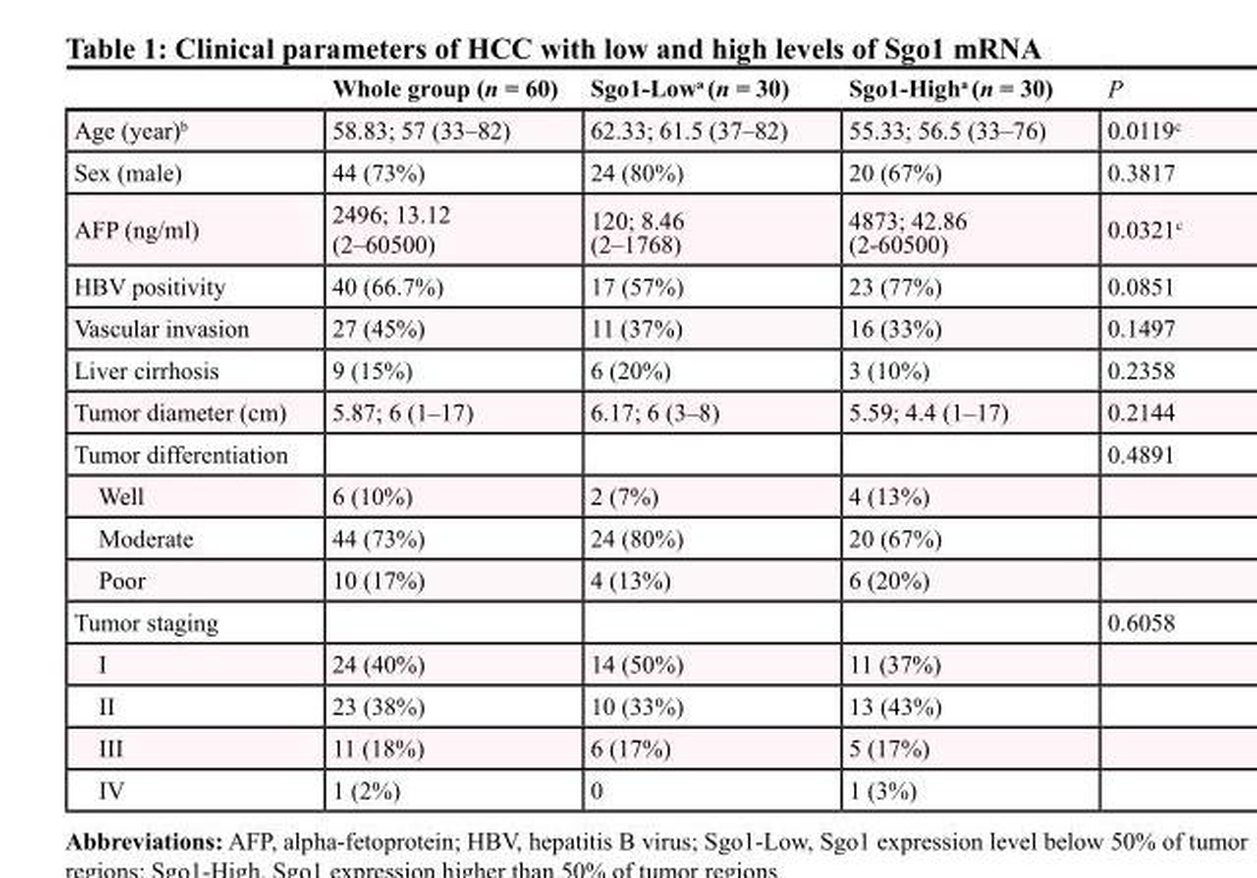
<table><thead><tr><td></td><td>Whole group (n = 60)</td><td>Sgo1-Low<sup>a</sup> (n = 30)</td><td>Sgo1-High<sup>a</sup> (n = 30)</td><td>P</td></tr></thead><tbody><tr><td>Age (year)<sup>b</sup></td><td>58.83; 57 (33–82)</td><td>62.33; 61.5 (37–82)</td><td>55.33; 56.5 (33–76)</td><td>0.0119<sup>c</sup></td></tr><tr><td>Sex (male)</td><td>44 (73%)</td><td>24 (80%)</td><td>20 (67%)</td><td>0.3817</td></tr><tr><td>AFP (ng/ml)</td><td>2496; 13.12 (2–60500)</td><td>120; 8.46 (2–1768)</td><td>4873; 42.86 (2-60500)</td><td>0.0321<sup>c</sup></td></tr><tr><td>HBV positivity</td><td>40 (66.7%)</td><td>17 (57%)</td><td>23 (77%)</td><td>0.0851</td></tr><tr><td>Vascular invasion</td><td>27 (45%)</td><td>11 (37%)</td><td>16 (33%)</td><td>0.1497</td></tr><tr><td>Liver cirrhosis</td><td>9 (15%)</td><td>6 (20%)</td><td>3 (10%)</td><td>0.2358</td></tr><tr><td>Tumor diameter (cm)</td><td>5.87; 6 (1–17)</td><td>6.17; 6 (3–8)</td><td>5.59; 4.4 (1–17)</td><td>0.2144</td></tr><tr><td>Tumor differentiation</td><td></td><td></td><td></td><td>0.4891</td></tr><tr><td>Well</td><td>6 (10%)</td><td>2 (7%)</td><td>4 (13%)</td><td></td></tr><tr><td>Moderate</td><td>44 (73%)</td><td>24 (80%)</td><td>20 (67%)</td><td></td></tr><tr><td>Poor</td><td>10 (17%)</td><td>4 (13%)</td><td>6 (20%)</td><td></td></tr><tr><td>Tumor staging</td><td></td><td></td><td></td><td>0.6058</td></tr><tr><td>I</td><td>24 (40%)</td><td>14 (50%)</td><td>11 (37%)</td><td></td></tr><tr><td>II</td><td>23 (38%)</td><td>10 (33%)</td><td>13 (43%)</td><td></td></tr><tr><td>III</td><td>11 (18%)</td><td>6 (17%)</td><td>5 (17%)</td><td></td></tr><tr><td>IV</td><td>1 (2%)</td><td>0</td><td>1 (3%)</td><td></td></tr></tbody></table>